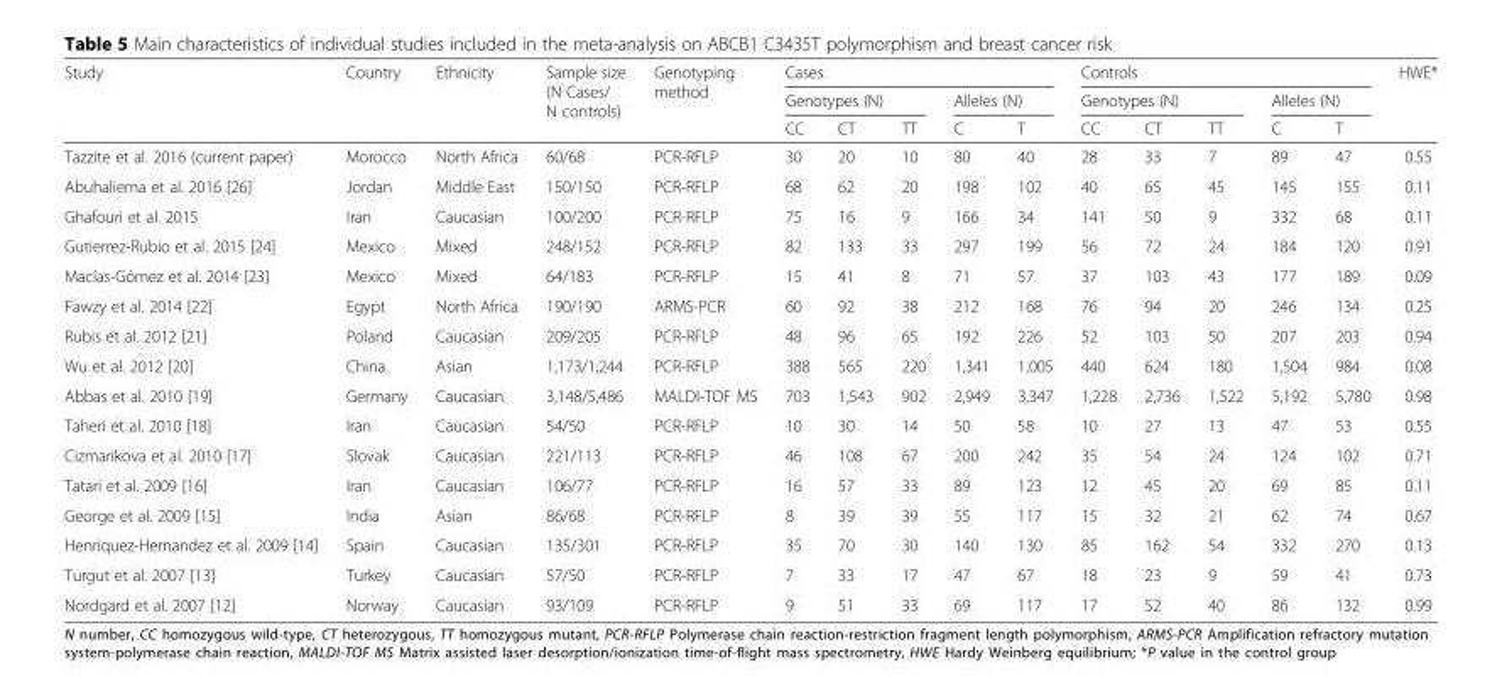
<table><thead><tr><td rowspan="3">Study</td><td rowspan="3">Country</td><td rowspan="3">Ethnicity</td><td rowspan="3">Sample size (N Cases/ N controls)</td><td rowspan="3">Genotyping method</td><td colspan="5">Cases</td><td colspan="5">Controls</td><td rowspan="3">HWE*</td></tr><tr><td colspan="3">Genotypes (N)</td><td colspan="2">Alleles (N)</td><td colspan="3">Genotypes (N)</td><td colspan="2">Alleles (N)</td></tr><tr><td>CC</td><td>CT</td><td>TT</td><td>C</td><td>T</td><td>CC</td><td>CT</td><td>TT</td><td>C</td><td>T</td></tr></thead><tbody><tr><td>Tazzite et al. 2016 (current paper)</td><td>Morocco</td><td>North Africa</td><td>60/68</td><td>PCR-RFLP</td><td>30</td><td>20</td><td>10</td><td>80</td><td>40</td><td>28</td><td>33</td><td>7</td><td>89</td><td>47</td><td>0.55</td></tr><tr><td>Abuhaliema et al. 2016 [26]</td><td>Jordan</td><td>Middle East</td><td>150/150</td><td>PCR-RFLP</td><td>68</td><td>62</td><td>20</td><td>198</td><td>102</td><td>40</td><td>65</td><td>45</td><td>145</td><td>155</td><td>0.11</td></tr><tr><td>Ghafouri et al. 2015</td><td>Iran</td><td>Caucasian</td><td>100/200</td><td>PCR-RFLP</td><td>75</td><td>16</td><td>9</td><td>166</td><td>34</td><td>141</td><td>50</td><td>9</td><td>332</td><td>68</td><td>0.11</td></tr><tr><td>Gutierrez-Rubio et al. 2015 [24]</td><td>Mexico</td><td>Mixed</td><td>248/152</td><td>PCR-RFLP</td><td>82</td><td>133</td><td>33</td><td>297</td><td>199</td><td>56</td><td>72</td><td>24</td><td>184</td><td>120</td><td>0.91</td></tr><tr><td>Macías-Gómez et al. 2014 [23]</td><td>Mexico</td><td>Mixed</td><td>64/183</td><td>PCR-RFLP</td><td>15</td><td>41</td><td>8</td><td>71</td><td>57</td><td>37</td><td>103</td><td>43</td><td>177</td><td>189</td><td>0.09</td></tr><tr><td>Fawzy et al. 2014 [22]</td><td>Egypt</td><td>North Africa</td><td>190/190</td><td>ARMS-PCR</td><td>60</td><td>92</td><td>38</td><td>212</td><td>168</td><td>76</td><td>94</td><td>20</td><td>246</td><td>134</td><td>0.25</td></tr><tr><td>Rubis et al. 2012 [21]</td><td>Poland</td><td>Caucasian</td><td>209/205</td><td>PCR-RFLP</td><td>48</td><td>96</td><td>65</td><td>192</td><td>226</td><td>52</td><td>103</td><td>50</td><td>207</td><td>203</td><td>0.94</td></tr><tr><td>Wu et al. 2012 [20]</td><td>China</td><td>Asian</td><td>1,173/1,244</td><td>PCR-RFLP</td><td>388</td><td>565</td><td>220</td><td>1,341</td><td>1,005</td><td>440</td><td>624</td><td>180</td><td>1,504</td><td>984</td><td>0.08</td></tr><tr><td>Abbas et al. 2010 [19]</td><td>Germany</td><td>Caucasian</td><td>3,148/5,486</td><td>MALDI-TOF MS</td><td>703</td><td>1,543</td><td>902</td><td>2,949</td><td>3,347</td><td>1,228</td><td>2,736</td><td>1,522</td><td>5,192</td><td>5,780</td><td>0.98</td></tr><tr><td>Taheri et al. 2010 [18]</td><td>Iran</td><td>Caucasian</td><td>54/50</td><td>PCR-RFLP</td><td>10</td><td>30</td><td>14</td><td>50</td><td>58</td><td>10</td><td>27</td><td>13</td><td>47</td><td>53</td><td>0.55</td></tr><tr><td>Cizmarikova et al. 2010 [17]</td><td>Slovak</td><td>Caucasian</td><td>221/113</td><td>PCR-RFLP</td><td>46</td><td>108</td><td>67</td><td>200</td><td>242</td><td>35</td><td>54</td><td>24</td><td>124</td><td>102</td><td>0.71</td></tr><tr><td>Tatari et al. 2009 [16]</td><td>Iran</td><td>Caucasian</td><td>106/77</td><td>PCR-RFLP</td><td>16</td><td>57</td><td>33</td><td>89</td><td>123</td><td>12</td><td>45</td><td>20</td><td>69</td><td>85</td><td>0.11</td></tr><tr><td>George et al. 2009 [15]</td><td>India</td><td>Asian</td><td>86/68</td><td>PCR-RFLP</td><td>8</td><td>39</td><td>39</td><td>55</td><td>117</td><td>15</td><td>32</td><td>21</td><td>62</td><td>74</td><td>0.67</td></tr><tr><td>Henriquez-Hernandez et al. 2009 [14]</td><td>Spain</td><td>Caucasian</td><td>135/301</td><td>PCR-RFLP</td><td>35</td><td>70</td><td>30</td><td>140</td><td>130</td><td>85</td><td>162</td><td>54</td><td>332</td><td>270</td><td>0.13</td></tr><tr><td>Turgut et al. 2007 [13]</td><td>Turkey</td><td>Caucasian</td><td>57/50</td><td>PCR-RFLP</td><td>7</td><td>33</td><td>17</td><td>47</td><td>67</td><td>18</td><td>23</td><td>9</td><td>59</td><td>41</td><td>0.73</td></tr><tr><td>Nordgard et al. 2007 [12]</td><td>Norway</td><td>Caucasian</td><td>93/109</td><td>PCR-RFLP</td><td>9</td><td>51</td><td>33</td><td>69</td><td>117</td><td>17</td><td>52</td><td>40</td><td>86</td><td>132</td><td>0.99</td></tr></tbody></table>